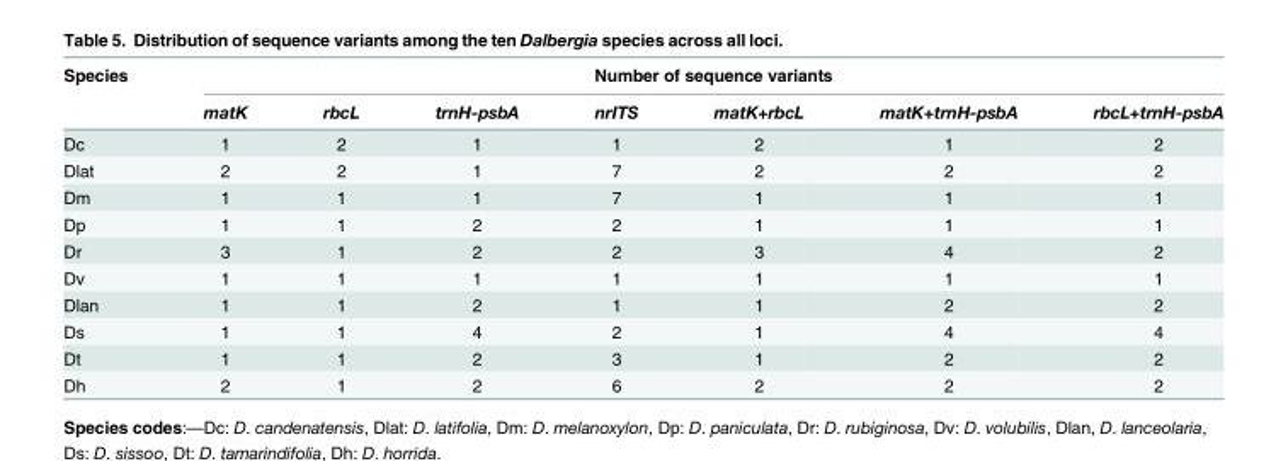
<table><thead><tr><td rowspan="2">Species</td><td colspan="7">Number of sequence variants</td></tr><tr><td>matK</td><td>rbcL</td><td>trnH-psbA</td><td>nrITS</td><td>matK+rbcL</td><td>matK+trnH-psbA</td><td>rbcL+trnH-psbA</td></tr></thead><tbody><tr><td>Dc</td><td>1</td><td>2</td><td>1</td><td>1</td><td>2</td><td>1</td><td>2</td></tr><tr><td>Dlat</td><td>2</td><td>2</td><td>1</td><td>7</td><td>2</td><td>2</td><td>2</td></tr><tr><td>Dm</td><td>1</td><td>1</td><td>1</td><td>7</td><td>1</td><td>1</td><td>1</td></tr><tr><td>Dp</td><td>1</td><td>1</td><td>2</td><td>2</td><td>1</td><td>1</td><td>1</td></tr><tr><td>Dr</td><td>3</td><td>1</td><td>2</td><td>2</td><td>3</td><td>4</td><td>2</td></tr><tr><td>Dv</td><td>1</td><td>1</td><td>1</td><td>1</td><td>1</td><td>1</td><td>1</td></tr><tr><td>Dlan</td><td>1</td><td>1</td><td>2</td><td>1</td><td>1</td><td>2</td><td>2</td></tr><tr><td>Ds</td><td>1</td><td>1</td><td>4</td><td>2</td><td>1</td><td>4</td><td>4</td></tr><tr><td>Dt</td><td>1</td><td>1</td><td>2</td><td>3</td><td>1</td><td>2</td><td>2</td></tr><tr><td>Dh</td><td>2</td><td>1</td><td>2</td><td>6</td><td>2</td><td>2</td><td>2</td></tr></tbody></table>